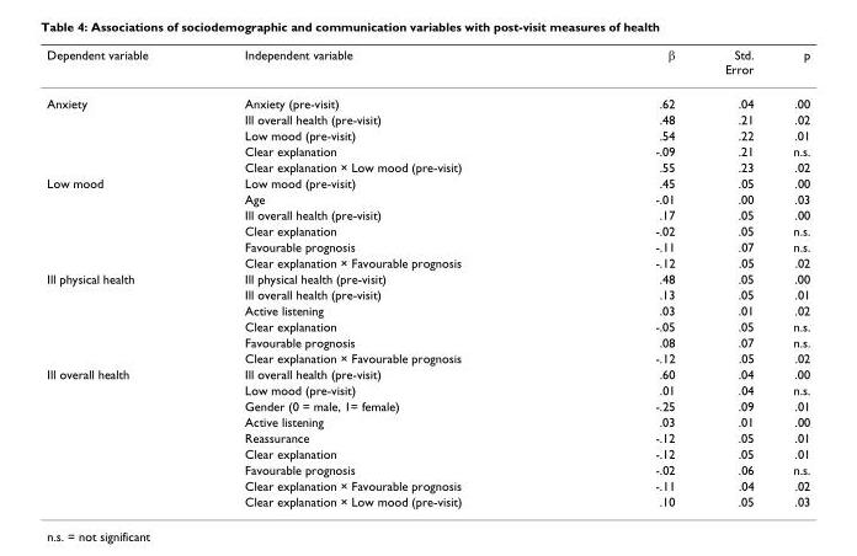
<table><thead><tr><td>Dependent variable</td><td>Independent variable</td><td>β</td><td>Std. Error</td><td>p</td></tr></thead><tbody><tr><td rowspan="5">Anxiety</td><td>Anxiety (pre-visit)</td><td>.62</td><td>.04</td><td>.00</td></tr><tr><td>Ill overall health (pre-visit)</td><td>.48</td><td>.21</td><td>.02</td></tr><tr><td>Low mood (pre-visit)</td><td>.54</td><td>.22</td><td>.01</td></tr><tr><td>Clear explanation</td><td>-.09</td><td>.21</td><td>n.s.</td></tr><tr><td>Clear explanation × Low mood (pre-visit)</td><td>.55</td><td>.23</td><td>.02</td></tr><tr><td rowspan="6">Low mood</td><td>Low mood (pre-visit)</td><td>.45</td><td>.05</td><td>.00</td></tr><tr><td>Age</td><td>-.01</td><td>.00</td><td>.03</td></tr><tr><td>Ill overall health (pre-visit)</td><td>.17</td><td>.05</td><td>.00</td></tr><tr><td>Clear explanation</td><td>-.02</td><td>.05</td><td>n.s.</td></tr><tr><td>Favourable prognosis</td><td>-.11</td><td>.07</td><td>n.s.</td></tr><tr><td>Clear explanation × Favourable prognosis</td><td>-.12</td><td>.05</td><td>.02</td></tr><tr><td rowspan="6">Ill physical health</td><td>Ill physical health (pre-visit)</td><td>.48</td><td>.05</td><td>.00</td></tr><tr><td>Ill overall health (pre-visit)</td><td>.13</td><td>.05</td><td>.01</td></tr><tr><td>Active listening</td><td>.03</td><td>.01</td><td>.02</td></tr><tr><td>Clear explanation</td><td>-.05</td><td>.05</td><td>n.s.</td></tr><tr><td>Favourable prognosis</td><td>.08</td><td>.07</td><td>n.s.</td></tr><tr><td>Clear explanation × Favourable prognosis</td><td>-.12</td><td>.05</td><td>.02</td></tr><tr><td rowspan="9">Ill overall health</td><td>Ill overall health (pre-visit)</td><td>.60</td><td>.04</td><td>.00</td></tr><tr><td>Low mood (pre-visit)</td><td>.01</td><td>.04</td><td>n.s.</td></tr><tr><td>Gender (0 = male, 1= female)</td><td>-.25</td><td>.09</td><td>.01</td></tr><tr><td>Active listening</td><td>.03</td><td>.01</td><td>.00</td></tr><tr><td>Reassurance</td><td>-.12</td><td>.05</td><td>.01</td></tr><tr><td>Clear explanation</td><td>-.12</td><td>.05</td><td>.01</td></tr><tr><td>Favourable prognosis</td><td>-.02</td><td>.06</td><td>n.s.</td></tr><tr><td>Clear explanation × Favourable prognosis</td><td>-.11</td><td>.04</td><td>.02</td></tr><tr><td>Clear explanation × Low mood (pre-visit)</td><td>.10</td><td>.05</td><td>.03</td></tr></tbody></table>